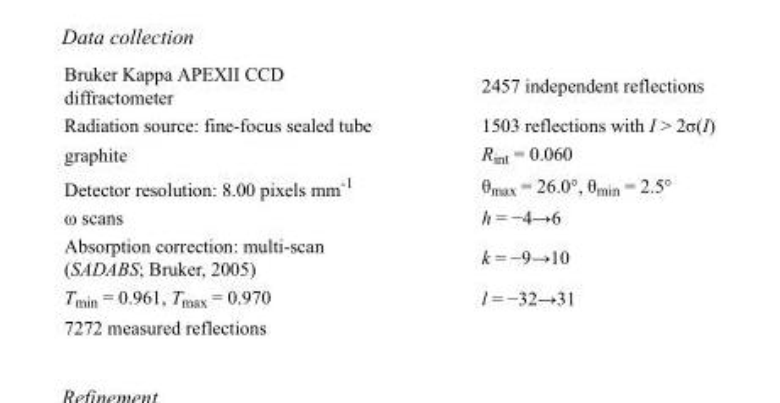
<table><tbody><tr><td>Bruker Kappa APEXII CCD diffractometer</td><td>2457 independent reflections</td></tr><tr><td>Radiation source: fine-focus sealed tube</td><td>1503 reflections with I &gt; 2σ(I)</td></tr><tr><td>graphite</td><td>R<sub>int</sub> = 0.060</td></tr><tr><td>Detector resolution: 8.00 pixels mm<sup>-1</sup></td><td>θ<sub>max</sub> = 26.0°, θ<sub>min</sub> = 2.5°</td></tr><tr><td>ω scans</td><td>h = −4→6</td></tr><tr><td>Absorption correction: multi-scan (SADABS; Bruker, 2005)</td><td>k = −9→10</td></tr><tr><td>T<sub>min</sub> = 0.961, T<sub>max</sub> = 0.970</td><td>l = −32→31</td></tr><tr><td>7272 measured reflections</td><td></td></tr></tbody></table>